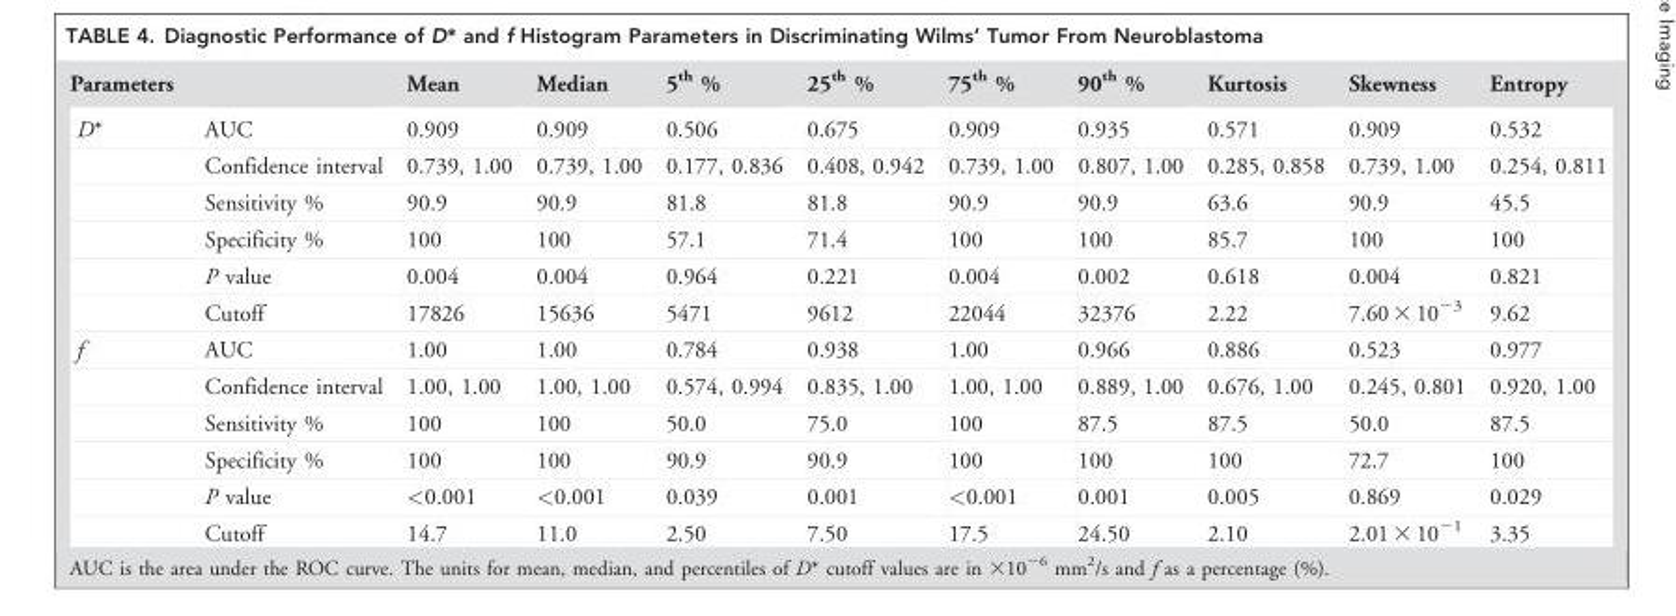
<table><thead><tr><td>Parameters</td><td></td><td>Mean</td><td>Median</td><td>5<sup>th</sup> %</td><td>25<sup>th</sup> %</td><td>75<sup>th</sup> %</td><td>90<sup>th</sup> %</td><td>Kurtosis</td><td>Skewness</td><td>Entropy</td></tr></thead><tbody><tr><td rowspan="6">D*</td><td>AUC</td><td>0.909</td><td>0.909</td><td>0.506</td><td>0.675</td><td>0.909</td><td>0.935</td><td>0.571</td><td>0.909</td><td>0.532</td></tr><tr><td>Confidence interval</td><td>0.739, 1.00</td><td>0.739, 1.00</td><td>0.177, 0.836</td><td>0.408, 0.942</td><td>0.739, 1.00</td><td>0.807, 1.00</td><td>0.285, 0.858</td><td>0.739, 1.00</td><td>0.254, 0.811</td></tr><tr><td>Sensitivity %</td><td>90.9</td><td>90.9</td><td>81.8</td><td>81.8</td><td>90.9</td><td>90.9</td><td>63.6</td><td>90.9</td><td>45.5</td></tr><tr><td>Specificity %</td><td>100</td><td>100</td><td>57.1</td><td>71.4</td><td>100</td><td>100</td><td>85.7</td><td>100</td><td>100</td></tr><tr><td>P value</td><td>0.004</td><td>0.004</td><td>0.964</td><td>0.221</td><td>0.004</td><td>0.002</td><td>0.618</td><td>0.004</td><td>0.821</td></tr><tr><td>Cutoff</td><td>17826</td><td>15636</td><td>5471</td><td>9612</td><td>22044</td><td>32376</td><td>2.22</td><td>7.60 × 10<sup>−3</sup></td><td>9.62</td></tr><tr><td rowspan="6">f</td><td>AUC</td><td>1.00</td><td>1.00</td><td>0.784</td><td>0.938</td><td>1.00</td><td>0.966</td><td>0.886</td><td>0.523</td><td>0.977</td></tr><tr><td>Confidence interval</td><td>1.00, 1.00</td><td>1.00, 1.00</td><td>0.574, 0.994</td><td>0.835, 1.00</td><td>1.00, 1.00</td><td>0.889, 1.00</td><td>0.676, 1.00</td><td>0.245, 0.801</td><td>0.920, 1.00</td></tr><tr><td>Sensitivity %</td><td>100</td><td>100</td><td>50.0</td><td>75.0</td><td>100</td><td>87.5</td><td>87.5</td><td>50.0</td><td>87.5</td></tr><tr><td>Specificity %</td><td>100</td><td>100</td><td>90.9</td><td>90.9</td><td>100</td><td>100</td><td>100</td><td>72.7</td><td>100</td></tr><tr><td>P value</td><td>&lt;0.001</td><td>&lt;0.001</td><td>0.039</td><td>0.001</td><td>&lt;0.001</td><td>0.001</td><td>0.005</td><td>0.869</td><td>0.029</td></tr><tr><td>Cutoff</td><td>14.7</td><td>11.0</td><td>2.50</td><td>7.50</td><td>17.5</td><td>24.50</td><td>2.10</td><td>2.01 × 10<sup>−1</sup></td><td>3.35</td></tr></tbody></table>